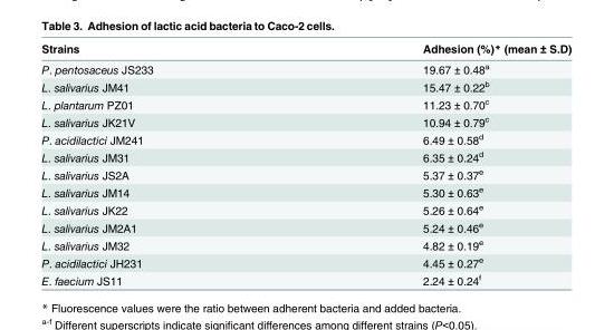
<table><thead><tr><td>Strains</td><td>Adhesion (%)* (mean ± S.D)</td></tr></thead><tbody><tr><td>P. pentosaceus JS233</td><td>19.67 ± 0.48<sup>a</sup></td></tr><tr><td>L. salivarius JM41</td><td>15.47 ± 0.22<sup>b</sup></td></tr><tr><td>L. plantarum PZ01</td><td>11.23 ± 0.70<sup>c</sup></td></tr><tr><td>L. salivarius JK21V</td><td>10.94 ± 0.79<sup>c</sup></td></tr><tr><td>P. acidilactici JM241</td><td>6.49 ± 0.58<sup>d</sup></td></tr><tr><td>L. salivarius JM31</td><td>6.35 ± 0.24<sup>d</sup></td></tr><tr><td>L. salivarius JS2A</td><td>5.37 ± 0.37<sup>e</sup></td></tr><tr><td>L. salivarius JM14</td><td>5.30 ± 0.63<sup>e</sup></td></tr><tr><td>L. salivarius JK22</td><td>5.26 ± 0.64<sup>e</sup></td></tr><tr><td>L. salivarius JM2A1</td><td>5.24 ± 0.46<sup>e</sup></td></tr><tr><td>L. salivarius JM32</td><td>4.82 ± 0.19<sup>e</sup></td></tr><tr><td>P. acidilactici JH231</td><td>4.45 ± 0.27<sup>e</sup></td></tr><tr><td>E. faecium JS11</td><td>2.24 ± 0.24<sup>f</sup></td></tr></tbody></table>